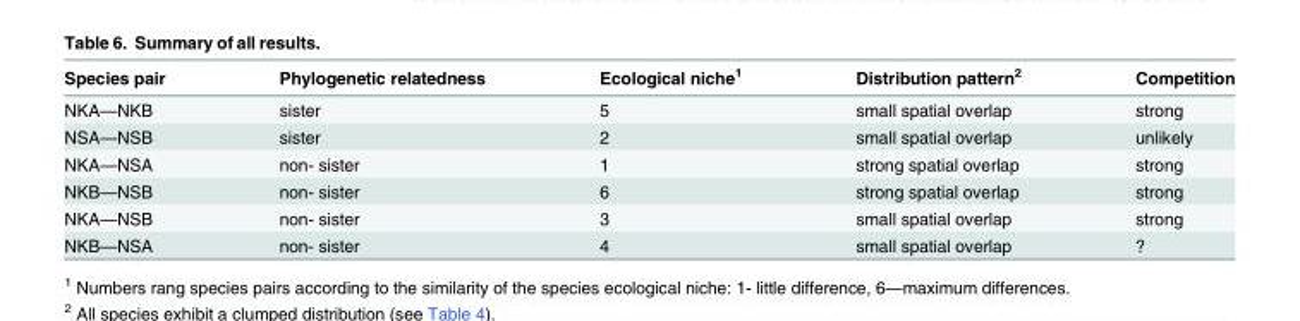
<table><thead><tr><td>Species pair</td><td>Phylogenetic relatedness</td><td>Ecological niche<sup>1</sup></td><td>Distribution pattern<sup>2</sup></td><td>Competition</td></tr></thead><tbody><tr><td>NKA—NKB</td><td>sister</td><td>5</td><td>small spatial overlap</td><td>strong</td></tr><tr><td>NSA—NSB</td><td>sister</td><td>2</td><td>small spatial overlap</td><td>unlikely</td></tr><tr><td>NKA—NSA</td><td>non- sister</td><td>1</td><td>strong spatial overlap</td><td>strong</td></tr><tr><td>NKB—NSB</td><td>non- sister</td><td>6</td><td>strong spatial overlap</td><td>strong</td></tr><tr><td>NKA—NSB</td><td>non- sister</td><td>3</td><td>small spatial overlap</td><td>strong</td></tr><tr><td>NKB—NSA</td><td>non- sister</td><td>4</td><td>small spatial overlap</td><td>?</td></tr></tbody></table>